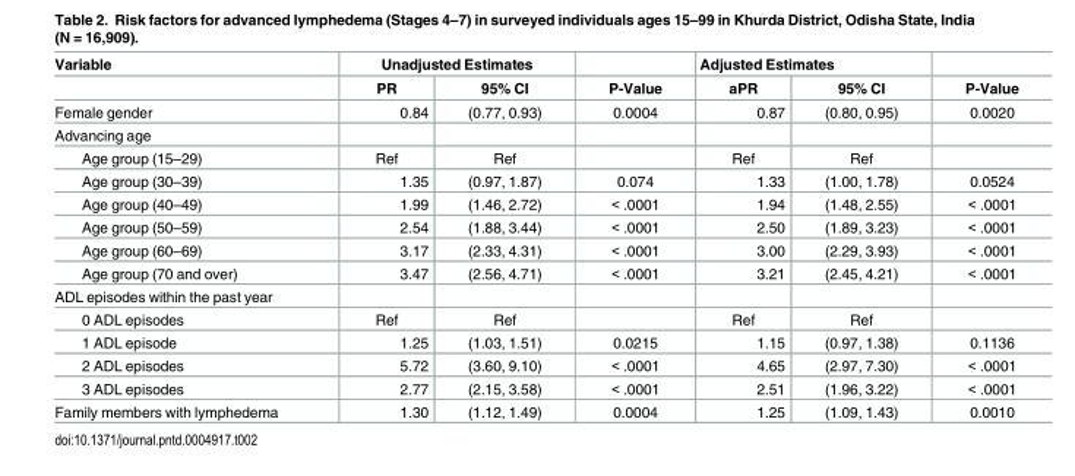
<table><thead><tr><td rowspan="2">Variable</td><td colspan="2">Unadjusted Estimates</td><td rowspan="2">P-Value</td><td colspan="2">Adjusted Estimates</td><td rowspan="2">P-Value</td></tr><tr><td>PR</td><td>95% CI</td><td>aPR</td><td>95% CI</td></tr></thead><tbody><tr><td>Female gender</td><td>0.84</td><td>(0.77, 0.93)</td><td>0.0004</td><td>0.87</td><td>(0.80, 0.95)</td><td>0.0020</td></tr><tr><td colspan="7">Advancing age</td></tr><tr><td>Age group (15–29)</td><td>Ref</td><td>Ref</td><td></td><td>Ref</td><td>Ref</td><td></td></tr><tr><td>Age group (30–39)</td><td>1.35</td><td>(0.97, 1.87)</td><td>0.074</td><td>1.33</td><td>(1.00, 1.78)</td><td>0.0524</td></tr><tr><td>Age group (40–49)</td><td>1.99</td><td>(1.46, 2.72)</td><td>&lt; .0001</td><td>1.94</td><td>(1.48, 2.55)</td><td>&lt; .0001</td></tr><tr><td>Age group (50–59)</td><td>2.54</td><td>(1.88, 3.44)</td><td>&lt; .0001</td><td>2.50</td><td>(1.89, 3.23)</td><td>&lt; .0001</td></tr><tr><td>Age group (60–69)</td><td>3.17</td><td>(2.33, 4.31)</td><td>&lt; .0001</td><td>3.00</td><td>(2.29, 3.93)</td><td>&lt; .0001</td></tr><tr><td>Age group (70 and over)</td><td>3.47</td><td>(2.56, 4.71)</td><td>&lt; .0001</td><td>3.21</td><td>(2.45, 4.21)</td><td>&lt; .0001</td></tr><tr><td colspan="7">ADL episodes within the past year</td></tr><tr><td>0 ADL episodes</td><td>Ref</td><td>Ref</td><td></td><td>Ref</td><td>Ref</td><td></td></tr><tr><td>1 ADL episode</td><td>1.25</td><td>(1.03, 1.51)</td><td>0.0215</td><td>1.15</td><td>(0.97, 1.38)</td><td>0.1136</td></tr><tr><td>2 ADL episodes</td><td>5.72</td><td>(3.60, 9.10)</td><td>&lt; .0001</td><td>4.65</td><td>(2.97, 7.30)</td><td>&lt; .0001</td></tr><tr><td>3 ADL episodes</td><td>2.77</td><td>(2.15, 3.58)</td><td>&lt; .0001</td><td>2.51</td><td>(1.96, 3.22)</td><td>&lt; .0001</td></tr><tr><td>Family members with lymphedema</td><td>1.30</td><td>(1.12, 1.49)</td><td>0.0004</td><td>1.25</td><td>(1.09, 1.43)</td><td>0.0010</td></tr></tbody></table>